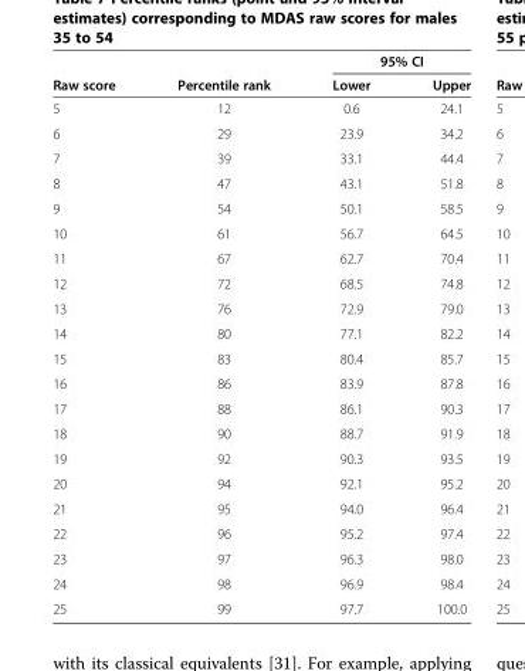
<table><thead><tr><td rowspan="2">Raw score</td><td rowspan="2">Percentile rank</td><td colspan="2">95% CI</td></tr><tr><td>Lower</td><td>Upper</td></tr></thead><tbody><tr><td>5</td><td>12</td><td>0.6</td><td>24.1</td></tr><tr><td>6</td><td>29</td><td>23.9</td><td>34.2</td></tr><tr><td>7</td><td>39</td><td>33.1</td><td>44.4</td></tr><tr><td>8</td><td>47</td><td>43.1</td><td>51.8</td></tr><tr><td>9</td><td>54</td><td>50.1</td><td>58.5</td></tr><tr><td>10</td><td>61</td><td>56.7</td><td>64.5</td></tr><tr><td>11</td><td>67</td><td>62.7</td><td>70.4</td></tr><tr><td>12</td><td>72</td><td>68.5</td><td>74.8</td></tr><tr><td>13</td><td>76</td><td>72.9</td><td>79.0</td></tr><tr><td>14</td><td>80</td><td>77.1</td><td>82.2</td></tr><tr><td>15</td><td>83</td><td>80.4</td><td>85.7</td></tr><tr><td>16</td><td>86</td><td>83.9</td><td>87.8</td></tr><tr><td>17</td><td>88</td><td>86.1</td><td>90.3</td></tr><tr><td>18</td><td>90</td><td>88.7</td><td>91.9</td></tr><tr><td>19</td><td>92</td><td>90.3</td><td>93.5</td></tr><tr><td>20</td><td>94</td><td>92.1</td><td>95.2</td></tr><tr><td>21</td><td>95</td><td>94.0</td><td>96.4</td></tr><tr><td>22</td><td>96</td><td>95.2</td><td>97.4</td></tr><tr><td>23</td><td>97</td><td>96.3</td><td>98.0</td></tr><tr><td>24</td><td>98</td><td>96.9</td><td>98.4</td></tr><tr><td>25</td><td>99</td><td>97.7</td><td>100.0</td></tr></tbody></table>